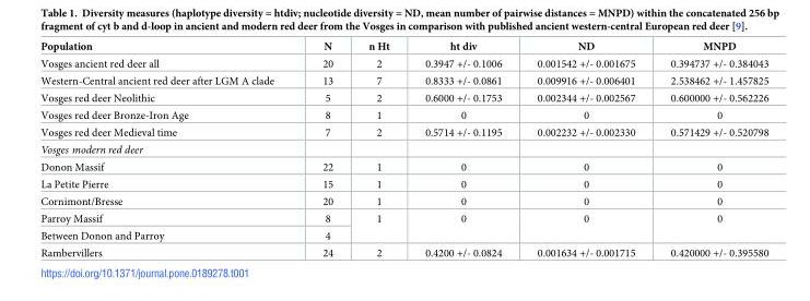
<table><thead><tr><td>Population</td><td>N</td><td>n Ht</td><td>ht div</td><td>ND</td><td>MNPD</td></tr></thead><tbody><tr><td>Vosges ancient red deer all</td><td>20</td><td>2</td><td>0.3947 +/- 0.1006</td><td>0.001542 +/- 0.001675</td><td>0.394737 +/- 0.384043</td></tr><tr><td>Western-Central ancient red deer after LGM A clade</td><td>13</td><td>7</td><td>0.8333 +/- 0.0861</td><td>0.009916 +/- 0.006401</td><td>2.538462 +/- 1.457825</td></tr><tr><td>Vosges red deer Neolithic</td><td>5</td><td>2</td><td>0.6000 +/- 0.1753</td><td>0.002344 +/- 0.002567</td><td>0.600000 +/- 0.562226</td></tr><tr><td>Vosges red deer Bronze-Iron Age</td><td>8</td><td>1</td><td>0</td><td>0</td><td>0</td></tr><tr><td>Vosges red deer Medieval time</td><td>7</td><td>2</td><td>0.5714 +/- 0.1195</td><td>0.002232 +/- 0.002330</td><td>0.571429 +/- 0.520798</td></tr><tr><td colspan="6">Vosges modern red deer</td></tr><tr><td>Donon Massif</td><td>22</td><td>1</td><td>0</td><td>0</td><td>0</td></tr><tr><td>La Petite Pierre</td><td>15</td><td>1</td><td>0</td><td>0</td><td>0</td></tr><tr><td>Cornimont/Bresse</td><td>20</td><td>1</td><td>0</td><td>0</td><td>0</td></tr><tr><td>Parroy Massif</td><td>8</td><td rowspan="2">1</td><td rowspan="2">0</td><td rowspan="2">0</td><td rowspan="2">0</td></tr><tr><td>Between Donon and Parroy</td><td>4</td></tr><tr><td>Rambervillers</td><td>24</td><td>2</td><td>0.4200 +/- 0.0824</td><td>0.001634 +/- 0.001715</td><td>0.420000 +/- 0.395580</td></tr></tbody></table>